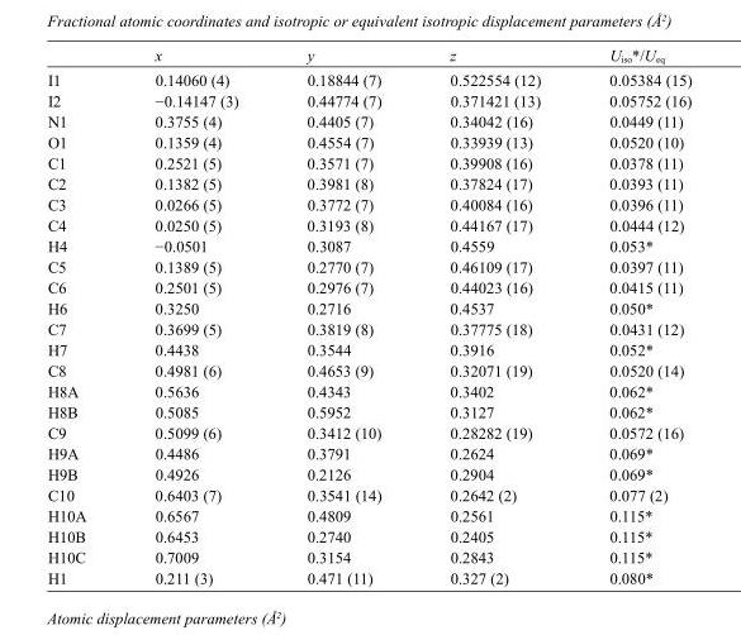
<table><thead><tr><td></td><td>x</td><td>y</td><td>z</td><td>U<sub>iso</sub>*/U<sub>eq</sub></td></tr></thead><tbody><tr><td>I1</td><td>0.14060 (4)</td><td>0.18844 (7)</td><td>0.522554 (12)</td><td>0.05384 (15)</td></tr><tr><td>I2</td><td>−0.14147 (3)</td><td>0.44774 (7)</td><td>0.371421 (13)</td><td>0.05752 (16)</td></tr><tr><td>N1</td><td>0.3755 (4)</td><td>0.4405 (7)</td><td>0.34042 (16)</td><td>0.0449 (11)</td></tr><tr><td>O1</td><td>0.1359 (4)</td><td>0.4554 (7)</td><td>0.33939 (13)</td><td>0.0520 (10)</td></tr><tr><td>C1</td><td>0.2521 (5)</td><td>0.3571 (7)</td><td>0.39908 (16)</td><td>0.0378 (11)</td></tr><tr><td>C2</td><td>0.1382 (5)</td><td>0.3981 (8)</td><td>0.37824 (17)</td><td>0.0393 (11)</td></tr><tr><td>C3</td><td>0.0266 (5)</td><td>0.3772 (7)</td><td>0.40084 (16)</td><td>0.0396 (11)</td></tr><tr><td>C4</td><td>0.0250 (5)</td><td>0.3193 (8)</td><td>0.44167 (17)</td><td>0.0444 (12)</td></tr><tr><td>H4</td><td>−0.0501</td><td>0.3087</td><td>0.4559</td><td>0.053*</td></tr><tr><td>C5</td><td>0.1389 (5)</td><td>0.2770 (7)</td><td>0.46109 (17)</td><td>0.0397 (11)</td></tr><tr><td>C6</td><td>0.2501 (5)</td><td>0.2976 (7)</td><td>0.44023 (16)</td><td>0.0415 (11)</td></tr><tr><td>H6</td><td>0.3250</td><td>0.2716</td><td>0.4537</td><td>0.050*</td></tr><tr><td>C7</td><td>0.3699 (5)</td><td>0.3819 (8)</td><td>0.37775 (18)</td><td>0.0431 (12)</td></tr><tr><td>H7</td><td>0.4438</td><td>0.3544</td><td>0.3916</td><td>0.052*</td></tr><tr><td>C8</td><td>0.4981 (6)</td><td>0.4653 (9)</td><td>0.32071 (19)</td><td>0.0520 (14)</td></tr><tr><td>H8A</td><td>0.5636</td><td>0.4343</td><td>0.3402</td><td>0.062*</td></tr><tr><td>H8B</td><td>0.5085</td><td>0.5952</td><td>0.3127</td><td>0.062*</td></tr><tr><td>C9</td><td>0.5099 (6)</td><td>0.3412 (10)</td><td>0.28282 (19)</td><td>0.0572 (16)</td></tr><tr><td>H9A</td><td>0.4486</td><td>0.3791</td><td>0.2624</td><td>0.069*</td></tr><tr><td>H9B</td><td>0.4926</td><td>0.2126</td><td>0.2904</td><td>0.069*</td></tr><tr><td>C10</td><td>0.6403 (7)</td><td>0.3541 (14)</td><td>0.2642 (2)</td><td>0.077 (2)</td></tr><tr><td>H10A</td><td>0.6567</td><td>0.4809</td><td>0.2561</td><td>0.115*</td></tr><tr><td>H10B</td><td>0.6453</td><td>0.2740</td><td>0.2405</td><td>0.115*</td></tr><tr><td>H10C</td><td>0.7009</td><td>0.3154</td><td>0.2843</td><td>0.115*</td></tr><tr><td>H1</td><td>0.211 (3)</td><td>0.471 (11)</td><td>0.327 (2)</td><td>0.080*</td></tr></tbody></table>